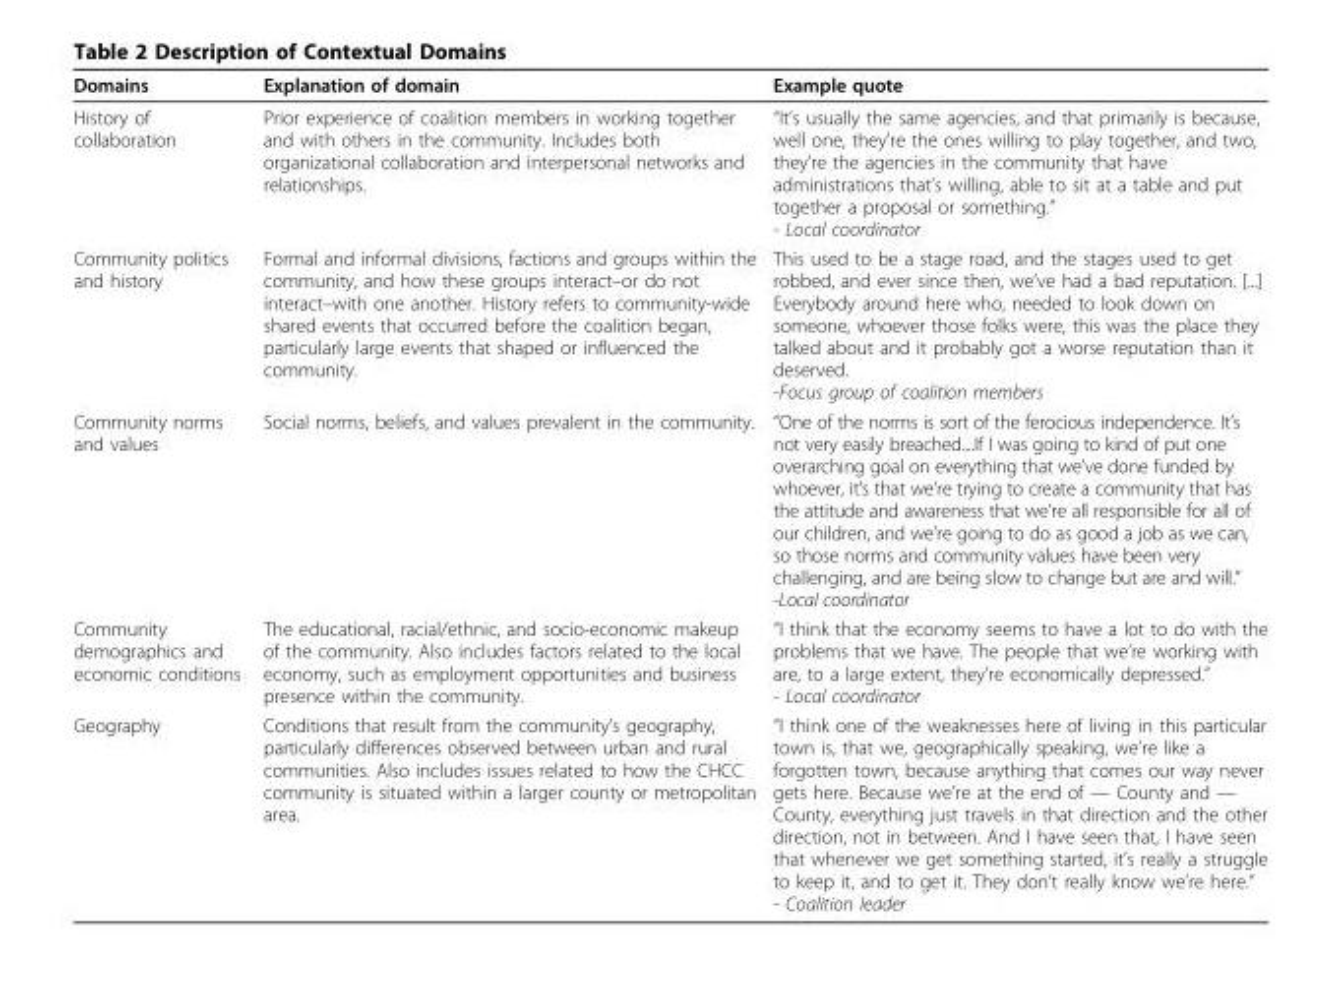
<table><thead><tr><td>Domains</td><td>Explanation of domain</td><td>Example quote</td></tr></thead><tbody><tr><td>History of collaboration</td><td>Prior experience of coalition members in working together and with others in the community. Includes both organizational collaboration and interpersonal networks and relationships.</td><td>“It’s usually the same agencies, and that primarily is because, well one, they’re the ones willing to play together, and two, they’re the agencies in the community that have administrations that’s willing, able to sit at a table and put together a proposal or something.” - Local coordinator</td></tr><tr><td>Community politics and history</td><td>Formal and informal divisions, factions and groups within the community, and how these groups interact–or do not interact–with one another. History refers to community-wide shared events that occurred before the coalition began, particularly large events that shaped or influenced the community.</td><td>This used to be a stage road, and the stages used to get robbed, and ever since then, we’ve had a bad reputation. [...] Everybody around here who, needed to look down on someone, whoever those folks were, this was the place they talked about and it probably got a worse reputation than it deserved. -Focus group of coalition members</td></tr><tr><td>Community norms and values</td><td>Social norms, beliefs, and values prevalent in the community.</td><td>“One of the norms is sort of the ferocious independence. It’s not very easily breached....If I was going to kind of put one overarching goal on everything that we’ve done funded by whoever, it’s that we’re trying to create a community that has the attitude and awareness that we’re all responsible for all of our children, and we’re going to do as good a job as we can, so those norms and community values have been very challenging, and are being slow to change but are and will.” -Local coordinator</td></tr><tr><td>Community demographics and economic conditions</td><td>The educational, racial/ethnic, and socio-economic makeup of the community. Also includes factors related to the local economy, such as employment opportunities and business presence within the community.</td><td>“I think that the economy seems to have a lot to do with the problems that we have. The people that we’re working with are, to a large extent, they’re economically depressed.” - Local coordinator</td></tr><tr><td>Geography</td><td>Conditions that result from the community’s geography, particularly differences observed between urban and rural communities. Also includes issues related to how the CHCC community is situated within a larger county or metropolitan area.</td><td>“I think one of the weaknesses here of living in this particular town is, that we, geographically speaking, we’re like a forgotten town, because anything that comes our way never gets here. Because we’re at the end of — County and — County, everything just travels in that direction and the other direction, not in between. And I have seen that, I have seen that whenever we get something started, it’s really a struggle to keep it, and to get it. They don’t really know we’re here.” - Coalition leader</td></tr></tbody></table>